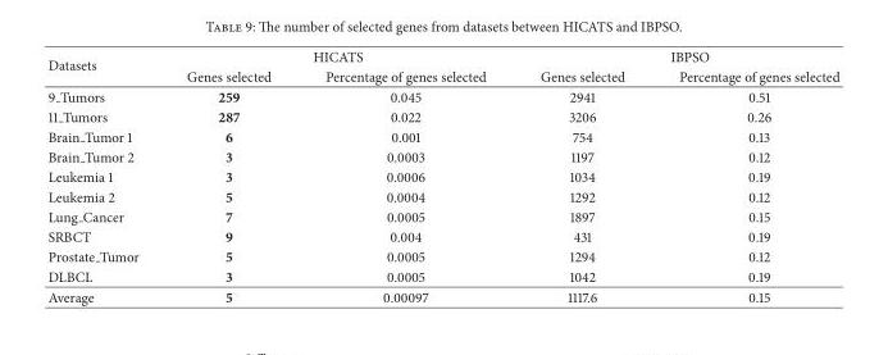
<table><thead><tr><td rowspan="2">Datasets</td><td colspan="2">HICATS</td><td colspan="2">IBPSO</td></tr><tr><td>Genes selected</td><td>Percentage of genes selected</td><td>Genes selected</td><td>Percentage of genes selected</td></tr></thead><tbody><tr><td>9 Tumors</td><td>259</td><td>0.045</td><td>2941</td><td>0.51</td></tr><tr><td>11 Tumors</td><td>287</td><td>0.022</td><td>3206</td><td>0.26</td></tr><tr><td>Brain Tumor 1</td><td>6</td><td>0.001</td><td>754</td><td>0.13</td></tr><tr><td>Brain Tumor 2</td><td>3</td><td>0.0003</td><td>1197</td><td>0.12</td></tr><tr><td>Leukemia 1</td><td>3</td><td>0.0006</td><td>1034</td><td>0.19</td></tr><tr><td>Leukemia 2</td><td>5</td><td>0.0004</td><td>1292</td><td>0.12</td></tr><tr><td>Lung Cancer</td><td>7</td><td>0.0005</td><td>1897</td><td>0.15</td></tr><tr><td>SRBCT</td><td>9</td><td>0.004</td><td>431</td><td>0.19</td></tr><tr><td>Prostate Tumor</td><td>5</td><td>0.0005</td><td>1294</td><td>0.12</td></tr><tr><td>DLBCL</td><td>3</td><td>0.0005</td><td>1042</td><td>0.19</td></tr><tr><td>Average</td><td>5</td><td>0.00097</td><td>1117.6</td><td>0.15</td></tr></tbody></table>